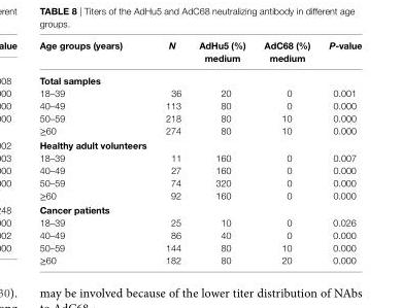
<table><thead><tr><td>age groups (years)</td><td>N</td><td>adhu5 (%) medium</td><td>adc68 (%) medium</td><td>P-value</td></tr></thead><tbody><tr><td colspan="5">Total samples</td></tr><tr><td>18–39</td><td>36</td><td>20</td><td>0</td><td>0.001</td></tr><tr><td>40–49</td><td>113</td><td>80</td><td>0</td><td>0.000</td></tr><tr><td>50–59</td><td>218</td><td>80</td><td>10</td><td>0.000</td></tr><tr><td>≥60</td><td>274</td><td>80</td><td>10</td><td>0.000</td></tr><tr><td colspan="5">healthy adult volunteers</td></tr><tr><td>18–39</td><td>11</td><td>160</td><td>0</td><td>0.007</td></tr><tr><td>40–49</td><td>27</td><td>160</td><td>0</td><td>0.000</td></tr><tr><td>50–59</td><td>74</td><td>320</td><td>0</td><td>0.000</td></tr><tr><td>≥60</td><td>92</td><td>160</td><td>0</td><td>0.000</td></tr><tr><td colspan="5">cancer patients</td></tr><tr><td>18–39</td><td>25</td><td>10</td><td>0</td><td>0.026</td></tr><tr><td>40–49</td><td>86</td><td>40</td><td>0</td><td>0.000</td></tr><tr><td>50–59</td><td>144</td><td>80</td><td>10</td><td>0.000</td></tr><tr><td>≥60</td><td>182</td><td>80</td><td>20</td><td>0.000</td></tr></tbody></table>